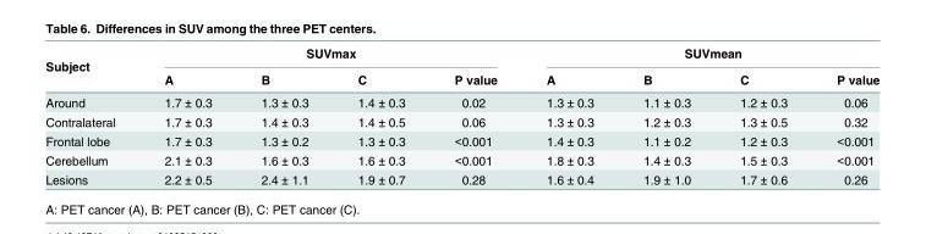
<table><thead><tr><td rowspan="2">Subject</td><td colspan="4">SUVmax</td><td colspan="4">SUVmean</td></tr><tr><td>A</td><td>B</td><td>C</td><td>P value</td><td>A</td><td>B</td><td>C</td><td>P value</td></tr></thead><tbody><tr><td>Around</td><td>1.7 ± 0.3</td><td>1.3 ± 0.3</td><td>1.4 ± 0.3</td><td>0.02</td><td>1.3 ± 0.3</td><td>1.1 ± 0.3</td><td>1.2 ± 0.3</td><td>0.06</td></tr><tr><td>Contralateral</td><td>1.7 ± 0.3</td><td>1.4 ± 0.3</td><td>1.4 ± 0.5</td><td>0.06</td><td>1.3 ± 0.3</td><td>1.2 ± 0.3</td><td>1.3 ± 0.5</td><td>0.32</td></tr><tr><td>Frontal lobe</td><td>1.7 ± 0.3</td><td>1.3 ± 0.2</td><td>1.3 ± 0.3</td><td>&lt;0.001</td><td>1.4 ± 0.3</td><td>1.1 ± 0.2</td><td>1.2 ± 0.3</td><td>&lt;0.001</td></tr><tr><td>Cerebellum</td><td>2.1 ± 0.3</td><td>1.6 ± 0.3</td><td>1.6 ± 0.3</td><td>&lt;0.001</td><td>1.8 ± 0.3</td><td>1.4 ± 0.3</td><td>1.5 ± 0.3</td><td>&lt;0.001</td></tr><tr><td>Lesions</td><td>2.2 ± 0.5</td><td>2.4 ± 1.1</td><td>1.9 ± 0.7</td><td>0.28</td><td>1.6 ± 0.4</td><td>1.9 ± 1.0</td><td>1.7 ± 0.6</td><td>0.26</td></tr></tbody></table>